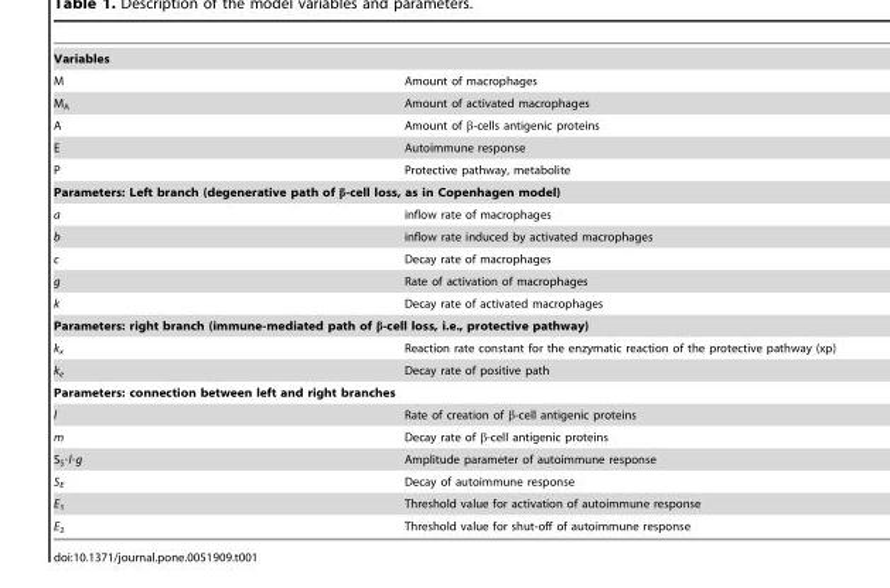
<table><tbody><tr><td colspan="2">Variables</td></tr><tr><td>M</td><td>Amount of macrophages</td></tr><tr><td>M<sub>A</sub></td><td>Amount of activated macrophages</td></tr><tr><td>A</td><td>Amount of β-cells antigenic proteins</td></tr><tr><td>E</td><td>Autoimmune response</td></tr><tr><td>P</td><td>Protective pathway, metabolite</td></tr><tr><td colspan="2">Parameters: Left branch (degenerative path of β-cell loss, as in Copenhagen model)</td></tr><tr><td>a</td><td>inflow rate of macrophages</td></tr><tr><td>b</td><td>inflow rate induced by activated macrophages</td></tr><tr><td>c</td><td>Decay rate of macrophages</td></tr><tr><td>g</td><td>Rate of activation of macrophages</td></tr><tr><td>k</td><td>Decay rate of activated macrophages</td></tr><tr><td colspan="2">Parameters: right branch (immune-mediated path of β-cell loss, i.e., protective pathway)</td></tr><tr><td>k<sub>x</sub></td><td>Reaction rate constant for the enzymatic reaction of the protective pathway (xp)</td></tr><tr><td>k<sub>e</sub></td><td>Decay rate of positive path</td></tr><tr><td colspan="2">Parameters: connection between left and right branches</td></tr><tr><td>l</td><td>Rate of creation of β-cell antigenic proteins</td></tr><tr><td>m</td><td>Decay rate of β-cell antigenic proteins</td></tr><tr><td>S<sub>S</sub>⋅l⋅g</td><td>Amplitude parameter of autoimmune response</td></tr><tr><td>S<sub>E</sub></td><td>Decay of autoimmune response</td></tr><tr><td>E<sub>1</sub></td><td>Threshold value for activation of autoimmune response</td></tr><tr><td>E<sub>2</sub></td><td>Threshold value for shut-off of autoimmune response</td></tr></tbody></table>